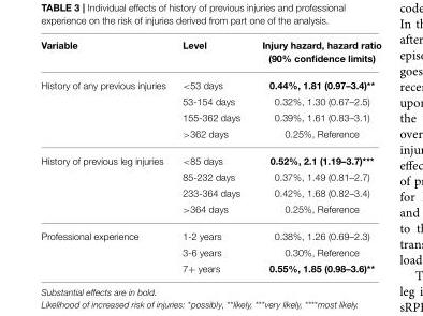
<table><thead><tr><td>Variable</td><td>Level</td><td>Injury hazard, hazard ratio (90% confidence limits)</td></tr></thead><tbody><tr><td rowspan="4">History of any previous injuries</td><td>&lt;53 days</td><td>0.44%, 1.81 (0.97–3.4)**</td></tr><tr><td>53-154 days</td><td>0.32%, 1.30 (0.67–2.5)</td></tr><tr><td>155-362 days</td><td>0.39%, 1.61 (0.83–3.1)</td></tr><tr><td>&gt;362 days</td><td>0.25%, Reference</td></tr><tr><td rowspan="4">History of previous leg injuries</td><td>&lt;85 days</td><td>0.52%, 2.1 (1.19–3.7)***</td></tr><tr><td>85-232 days</td><td>0.37%, 1.49 (0.81–2.7)</td></tr><tr><td>233-364 days</td><td>0.42%, 1.68 (0.82–3.4)</td></tr><tr><td>&gt;364 days</td><td>0.25%, Reference</td></tr><tr><td rowspan="3">Professional experience</td><td>1-2 years</td><td>0.38%, 1.26 (0.69–2.3)</td></tr><tr><td>3-6 years</td><td>0.30%, Reference</td></tr><tr><td>7+ years</td><td>0.55%, 1.85 (0.98–3.6)**</td></tr></tbody></table>